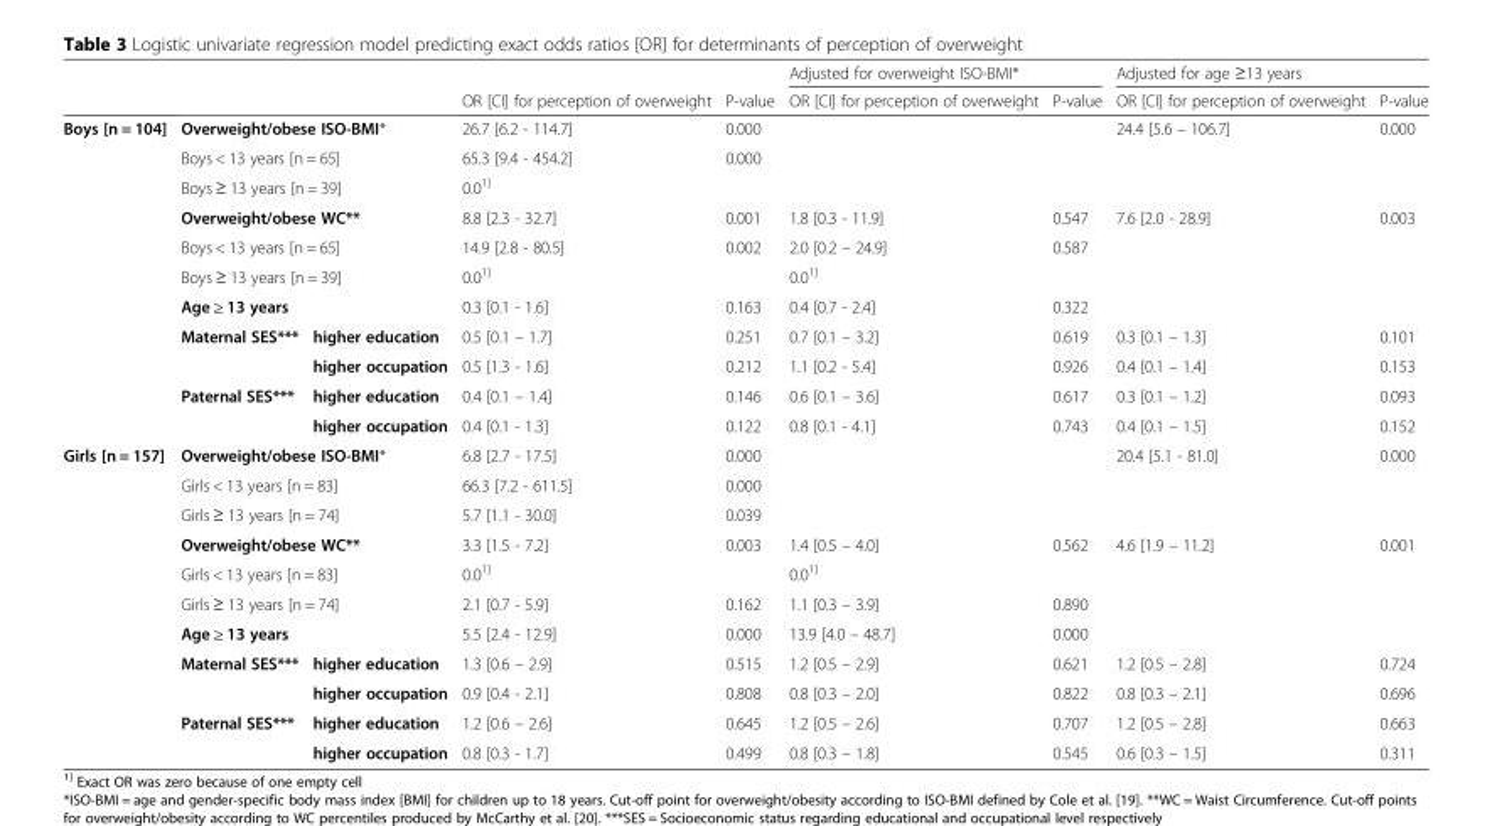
<table><thead><tr><td rowspan="2"></td><td rowspan="2"></td><td rowspan="2"></td><td rowspan="2">OR [CI] for perception of overweight</td><td rowspan="2">P-value</td><td colspan="2">Adjusted for overweight ISO-BMI*</td><td colspan="2">Adjusted for age ≥13 years</td></tr><tr><td>OR [CI] for perception of overweight</td><td>P-value</td><td>OR [CI] for perception of overweight</td><td>P-value</td></tr></thead><tbody><tr><td rowspan="11">Boys [n = 104]</td><td colspan="2">Overweight/obese ISO-BMI*</td><td>26.7 [6.2 - 114.7]</td><td>0.000</td><td></td><td></td><td>24.4 [5.6 – 106.7]</td><td>0.000</td></tr><tr><td colspan="2">Boys &lt; 13 years [n = 65]</td><td>65.3 [9.4 - 454.2]</td><td>0.000</td><td></td><td></td><td></td><td></td></tr><tr><td colspan="2">Boys ≥ 13 years [n = 39]</td><td>0.0<sup>1]</sup></td><td></td><td></td><td></td><td></td><td></td></tr><tr><td colspan="2">Overweight/obese WC**</td><td>8.8 [2.3 - 32.7]</td><td>0.001</td><td>1.8 [0.3 - 11.9]</td><td>0.547</td><td>7.6 [2.0 - 28.9]</td><td>0.003</td></tr><tr><td colspan="2">Boys &lt; 13 years [n = 65]</td><td>14.9 [2.8 - 80.5]</td><td>0.002</td><td>2.0 [0.2 – 24.9]</td><td>0.587</td><td></td><td></td></tr><tr><td colspan="2">Boys ≥ 13 years [n = 39]</td><td>0.0<sup>1]</sup></td><td></td><td>0.0<sup>1]</sup></td><td></td><td></td><td></td></tr><tr><td colspan="2">Age ≥ 13 years</td><td>0.3 [0.1 - 1.6]</td><td>0.163</td><td>0.4 [0.7 - 2.4]</td><td>0.322</td><td></td><td></td></tr><tr><td rowspan="2">Maternal SES***</td><td>higher education</td><td>0.5 [0.1 – 1.7]</td><td>0.251</td><td>0.7 [0.1 – 3.2]</td><td>0.619</td><td>0.3 [0.1 – 1.3]</td><td>0.101</td></tr><tr><td>higher occupation</td><td>0.5 [1.3 - 1.6]</td><td>0.212</td><td>1.1 [0.2 - 5.4]</td><td>0.926</td><td>0.4 [0.1 – 1.4]</td><td>0.153</td></tr><tr><td rowspan="2">Paternal SES***</td><td>higher education</td><td>0.4 [0.1 – 1.4]</td><td>0.146</td><td>0.6 [0.1 – 3.6]</td><td>0.617</td><td>0.3 [0.1 – 1.2]</td><td>0.093</td></tr><tr><td>higher occupation</td><td>0.4 [0.1 - 1.3]</td><td>0.122</td><td>0.8 [0.1 - 4.1]</td><td>0.743</td><td>0.4 [0.1 – 1.5]</td><td>0.152</td></tr><tr><td rowspan="11">Girls [n = 157]</td><td colspan="2">Overweight/obese ISO-BMI*</td><td>6.8 [2.7 - 17.5]</td><td>0.000</td><td></td><td></td><td>20.4 [5.1 - 81.0]</td><td>0.000</td></tr><tr><td colspan="2">Girls &lt; 13 years [n = 83]</td><td>66.3 [7.2 - 611.5]</td><td>0.000</td><td></td><td></td><td></td><td></td></tr><tr><td colspan="2">Girls ≥ 13 years [n = 74]</td><td>5.7 [1.1 - 30.0]</td><td>0.039</td><td></td><td></td><td></td><td></td></tr><tr><td colspan="2">Overweight/obese WC**</td><td>3.3 [1.5 - 7.2]</td><td>0.003</td><td>1.4 [0.5 – 4.0]</td><td>0.562</td><td>4.6 [1.9 – 11.2]</td><td>0.001</td></tr><tr><td colspan="2">Girls &lt; 13 years [n = 83]</td><td>0.0<sup>1]</sup></td><td></td><td>0.0<sup>1]</sup></td><td></td><td></td><td></td></tr><tr><td colspan="2">Girls ≥ 13 years [n = 74]</td><td>2.1 [0.7 - 5.9]</td><td>0.162</td><td>1.1 [0.3 – 3.9]</td><td>0.890</td><td></td><td></td></tr><tr><td colspan="2">Age ≥ 13 years</td><td>5.5 [2.4 - 12.9]</td><td>0.000</td><td>13.9 [4.0 – 48.7]</td><td>0.000</td><td></td><td></td></tr><tr><td rowspan="2">Maternal SES***</td><td>higher education</td><td>1.3 [0.6 – 2.9]</td><td>0.515</td><td>1.2 [0.5 – 2.9]</td><td>0.621</td><td>1.2 [0.5 – 2.8]</td><td>0.724</td></tr><tr><td>higher occupation</td><td>0.9 [0.4 - 2.1]</td><td>0.808</td><td>0.8 [0.3 – 2.0]</td><td>0.822</td><td>0.8 [0.3 – 2.1]</td><td>0.696</td></tr><tr><td rowspan="2">Paternal SES***</td><td>higher education</td><td>1.2 [0.6 – 2.6]</td><td>0.645</td><td>1.2 [0.5 – 2.6]</td><td>0.707</td><td>1.2 [0.5 – 2.8]</td><td>0.663</td></tr><tr><td>higher occupation</td><td>0.8 [0.3 - 1.7]</td><td>0.499</td><td>0.8 [0.3 – 1.8]</td><td>0.545</td><td>0.6 [0.3 – 1.5]</td><td>0.311</td></tr></tbody></table>